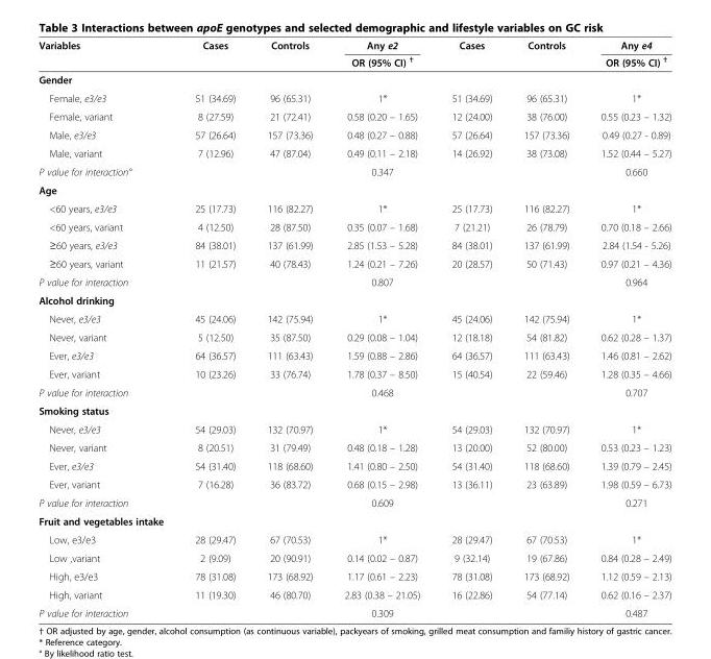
<table><thead><tr><td rowspan="2">Variables</td><td rowspan="2">Cases</td><td rowspan="2">Controls</td><td rowspan="2">Any e2 OR (95% CI) <sup>†</sup></td><td rowspan="2">Cases</td><td rowspan="2">Controls</td><td rowspan="2">Any e4 OR (95% CI) <sup>†</sup></td></tr><tr></tr></thead><tbody><tr><td colspan="7">Gender</td></tr><tr><td>Female, e3/e3</td><td>51 (34.69)</td><td>96 (65.31)</td><td>1*</td><td>51 (34.69)</td><td>96 (65.31)</td><td>1*</td></tr><tr><td>Female, variant</td><td>8 (27.59)</td><td>21 (72.41)</td><td>0.58 (0.20 – 1.65)</td><td>12 (24.00)</td><td>38 (76.00)</td><td>0.55 (0.23 – 1.32)</td></tr><tr><td>Male, e3/e3</td><td>57 (26.64)</td><td>157 (73.36)</td><td>0.48 (0.27 – 0.88)</td><td>57 (26.64)</td><td>157 (73.36)</td><td>0.49 (0.27 - 0.89)</td></tr><tr><td>Male, variant</td><td>7 (12.96)</td><td>47 (87.04)</td><td>0.49 (0.11 – 2.18)</td><td>14 (26.92)</td><td>38 (73.08)</td><td>1.52 (0.44 – 5.27)</td></tr><tr><td>P value for interaction°</td><td></td><td></td><td>0.347</td><td></td><td></td><td>0.660</td></tr><tr><td colspan="7">Age</td></tr><tr><td>&lt;60 years, e3/e3</td><td>25 (17.73)</td><td>116 (82.27)</td><td>1*</td><td>25 (17.73)</td><td>116 (82.27)</td><td>1*</td></tr><tr><td>&lt;60 years, variant</td><td>4 (12.50)</td><td>28 (87.50)</td><td>0.35 (0.07 – 1.68)</td><td>7 (21.21)</td><td>26 (78.79)</td><td>0.70 (0.18 – 2.66)</td></tr><tr><td>≥60 years, e3/e3</td><td>84 (38.01)</td><td>137 (61.99)</td><td>2.85 (1.53 – 5.28)</td><td>84 (38.01)</td><td>137 (61.99)</td><td>2.84 (1.54 - 5.26)</td></tr><tr><td>≥60 years, variant</td><td>11 (21.57)</td><td>40 (78.43)</td><td>1.24 (0.21 – 7.26)</td><td>20 (28.57)</td><td>50 (71.43)</td><td>0.97 (0.21 – 4.36)</td></tr><tr><td>P value for interaction</td><td></td><td></td><td>0.807</td><td></td><td></td><td>0.964</td></tr><tr><td colspan="7">Alcohol drinking</td></tr><tr><td>Never, e3/e3</td><td>45 (24.06)</td><td>142 (75.94)</td><td>1*</td><td>45 (24.06)</td><td>142 (75.94)</td><td>1*</td></tr><tr><td>Never, variant</td><td>5 (12.50)</td><td>35 (87.50)</td><td>0.29 (0.08 – 1.04)</td><td>12 (18.18)</td><td>54 (81.82)</td><td>0.62 (0.28 – 1.37)</td></tr><tr><td>Ever, e3/e3</td><td>64 (36.57)</td><td>111 (63.43)</td><td>1.59 (0.88 – 2.86)</td><td>64 (36.57)</td><td>111 (63.43)</td><td>1.46 (0.81 – 2.62)</td></tr><tr><td>Ever, variant</td><td>10 (23.26)</td><td>33 (76.74)</td><td>1.78 (0.37 – 8.50)</td><td>15 (40.54)</td><td>22 (59.46)</td><td>1.28 (0.35 – 4.66)</td></tr><tr><td>P value for interaction</td><td></td><td></td><td>0.468</td><td></td><td></td><td>0.707</td></tr><tr><td colspan="7">Smoking status</td></tr><tr><td>Never, e3/e3</td><td>54 (29.03)</td><td>132 (70.97)</td><td>1*</td><td>54 (29.03)</td><td>132 (70.97)</td><td>1*</td></tr><tr><td>Never, variant</td><td>8 (20.51)</td><td>31 (79.49)</td><td>0.48 (0.18 – 1.28)</td><td>13 (20.00)</td><td>52 (80.00)</td><td>0.53 (0.23 – 1.23)</td></tr><tr><td>Ever, e3/e3</td><td>54 (31.40)</td><td>118 (68.60)</td><td>1.41 (0.80 – 2.50)</td><td>54 (31.40)</td><td>118 (68.60)</td><td>1.39 (0.79 – 2.45)</td></tr><tr><td>Ever, variant</td><td>7 (16.28)</td><td>36 (83.72)</td><td>0.68 (0.15 – 2.98)</td><td>13 (36.11)</td><td>23 (63.89)</td><td>1.98 (0.59 – 6.73)</td></tr><tr><td>P value for interaction</td><td></td><td></td><td>0.609</td><td></td><td></td><td>0.271</td></tr><tr><td colspan="7">Fruit and vegetables intake</td></tr><tr><td>Low, e3/e3</td><td>28 (29.47)</td><td>67 (70.53)</td><td>1*</td><td>28 (29.47)</td><td>67 (70.53)</td><td>1*</td></tr><tr><td>Low ,variant</td><td>2 (9.09)</td><td>20 (90.91)</td><td>0.14 (0.02 – 0.87)</td><td>9 (32.14)</td><td>19 (67.86)</td><td>0.84 (0.28 – 2.49)</td></tr><tr><td>High, e3/e3</td><td>78 (31.08)</td><td>173 (68.92)</td><td>1.17 (0.61 – 2.23)</td><td>78 (31.08)</td><td>173 (68.92)</td><td>1.12 (0.59 – 2.13)</td></tr><tr><td>High, variant</td><td>11 (19.30)</td><td>46 (80.70)</td><td>2.83 (0.38 – 21.05)</td><td>16 (22.86)</td><td>54 (77.14)</td><td>0.62 (0.16 – 2.37)</td></tr><tr><td>P value for interaction</td><td></td><td></td><td>0.309</td><td></td><td></td><td>0.487</td></tr></tbody></table>